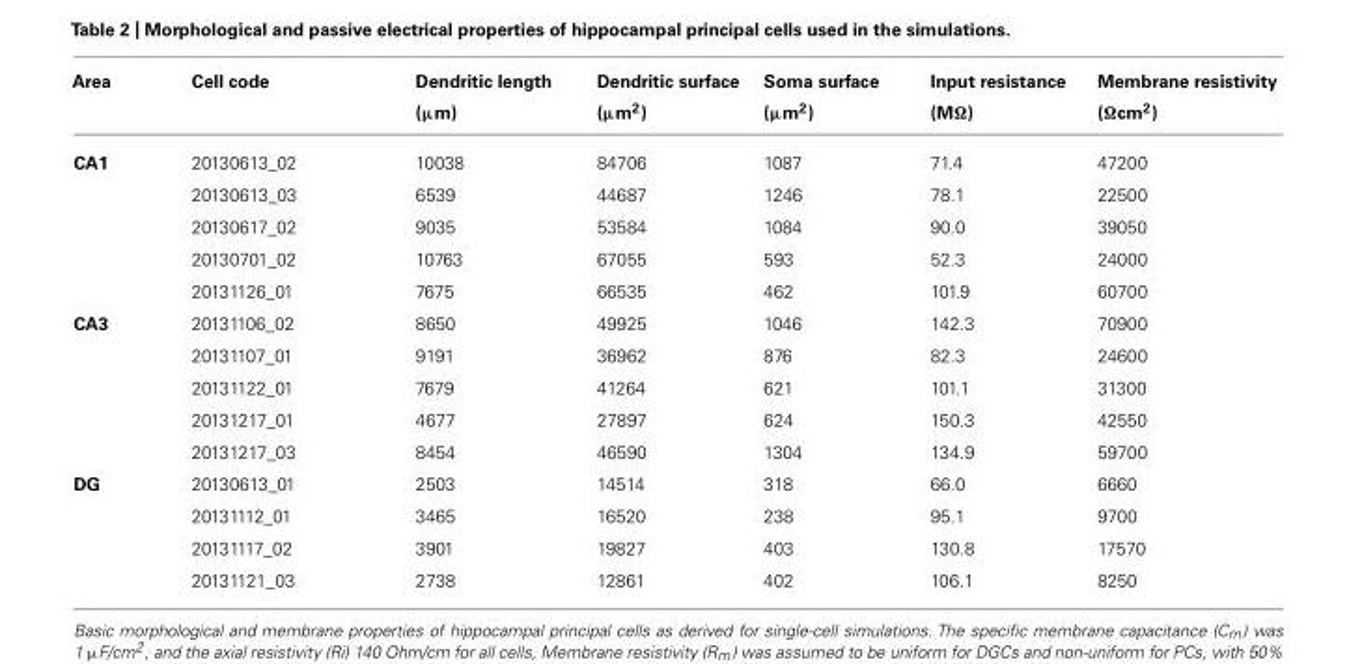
<table><thead><tr><td>Area</td><td>Cell code</td><td>Dendritic length (μm)</td><td>Dendritic surface (μm<sup>2</sup>)</td><td>Soma surface (μm<sup>2</sup>)</td><td>Input resistance (MΩ)</td><td>Membrane resistivity (Ωcm<sup>2</sup>)</td></tr></thead><tbody><tr><td rowspan="5">CA1</td><td>20130613_02</td><td>10038</td><td>84706</td><td>1087</td><td>71.4</td><td>47200</td></tr><tr><td>20130613_03</td><td>6539</td><td>44687</td><td>1246</td><td>78.1</td><td>22500</td></tr><tr><td>20130617_02</td><td>9035</td><td>53584</td><td>1084</td><td>90.0</td><td>39050</td></tr><tr><td>20130701_02</td><td>10763</td><td>67055</td><td>593</td><td>52.3</td><td>24000</td></tr><tr><td>20131126_01</td><td>7675</td><td>66535</td><td>462</td><td>101.9</td><td>60700</td></tr><tr><td rowspan="5">CA3</td><td>20131106_02</td><td>8650</td><td>49925</td><td>1046</td><td>142.3</td><td>70900</td></tr><tr><td>20131107_01</td><td>9191</td><td>36962</td><td>876</td><td>82.3</td><td>24600</td></tr><tr><td>20131122_01</td><td>7679</td><td>41264</td><td>621</td><td>101.1</td><td>31300</td></tr><tr><td>20131217_01</td><td>4677</td><td>27897</td><td>624</td><td>150.3</td><td>42550</td></tr><tr><td>20131217_03</td><td>8454</td><td>46590</td><td>1304</td><td>134.9</td><td>59700</td></tr><tr><td rowspan="4">DG</td><td>20130613_01</td><td>2503</td><td>14514</td><td>318</td><td>66.0</td><td>6660</td></tr><tr><td>20131112_01</td><td>3465</td><td>16520</td><td>238</td><td>95.1</td><td>9700</td></tr><tr><td>20131117_02</td><td>3901</td><td>19827</td><td>403</td><td>130.8</td><td>17570</td></tr><tr><td>20131121_03</td><td>2738</td><td>12861</td><td>402</td><td>106.1</td><td>8250</td></tr></tbody></table>